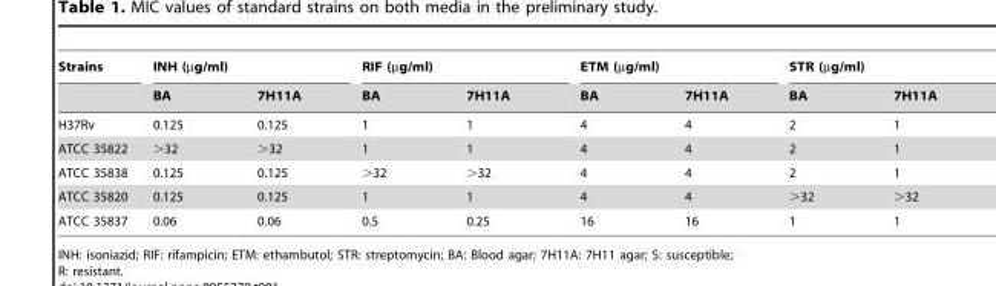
<table><thead><tr><td rowspan="2">Strains</td><td colspan="2">INH (µg/ml)</td><td colspan="2">RIF (µg/ml)</td><td colspan="2">ETM (µg/ml)</td><td colspan="2">STR (µg/ml)</td></tr><tr><td>BA</td><td>7H11A</td><td>BA</td><td>7H11A</td><td>BA</td><td>7H11A</td><td>BA</td><td>7H11A</td></tr></thead><tbody><tr><td>H37Rv</td><td>0.125</td><td>0.125</td><td>1</td><td>1</td><td>4</td><td>4</td><td>2</td><td>1</td></tr><tr><td>ATCC 35822</td><td>&gt;32</td><td>&gt;32</td><td>1</td><td>1</td><td>4</td><td>4</td><td>2</td><td>1</td></tr><tr><td>ATCC 35838</td><td>0.125</td><td>0.125</td><td>&gt;32</td><td>&gt;32</td><td>4</td><td>4</td><td>2</td><td>1</td></tr><tr><td>ATCC 35820</td><td>0.125</td><td>0.125</td><td>1</td><td>1</td><td>4</td><td>4</td><td>&gt;32</td><td>&gt;32</td></tr><tr><td>ATCC 35837</td><td>0.06</td><td>0.06</td><td>0.5</td><td>0.25</td><td>16</td><td>16</td><td>1</td><td>1</td></tr></tbody></table>